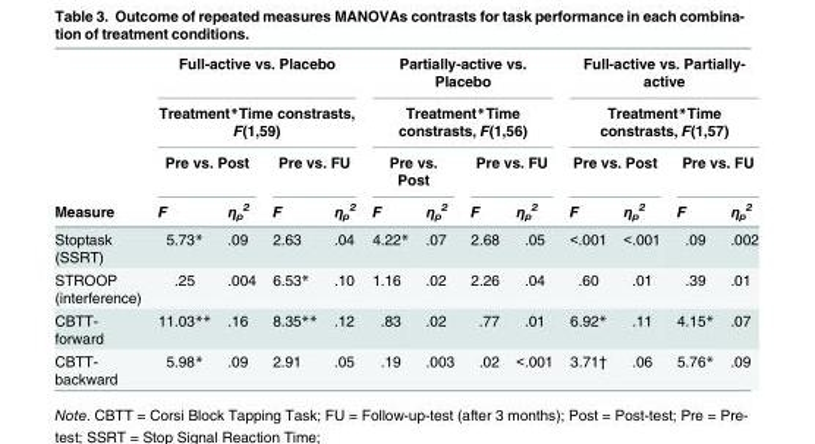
<table><thead><tr><td rowspan="4">Measure</td><td rowspan="2" colspan="4">Full-active vs. Placebo Treatment*Time constrasts, F(1,59)</td><td rowspan="2" colspan="4">Partially-active vs. Placebo Treatment*Time constrasts, F(1,56)</td><td rowspan="2" colspan="4">Full-active vs. Partially- active Treatment*Time constrasts, F(1,57)</td></tr><tr></tr><tr><td colspan="2">Pre vs. Post</td><td colspan="2">Pre vs. FU</td><td colspan="2">Pre vs. Post</td><td colspan="2">Pre vs. FU</td><td colspan="2">Pre vs. Post</td><td colspan="2">Pre vs. FU</td></tr><tr><td>F</td><td>η<sub>p</sub> <sup>2</sup></td><td>F</td><td>η<sub>p</sub> <sup>2</sup></td><td>F</td><td>η<sub>p</sub> <sup>2</sup></td><td>F</td><td>η<sub>p</sub> <sup>2</sup></td><td>F</td><td>η<sub>p</sub> <sup>2</sup></td><td>F</td><td>η<sub>p</sub> <sup>2</sup></td></tr></thead><tbody><tr><td>Stoptask (SSRT)</td><td>5.73*</td><td>.09</td><td>2.63</td><td>.04</td><td>4.22*</td><td>.07</td><td>2.68</td><td>.05</td><td>&lt;.001</td><td>&lt;.001</td><td>.09</td><td>.002</td></tr><tr><td>STROOP (interference)</td><td>.25</td><td>.004</td><td>6.53*</td><td>.10</td><td>1.16</td><td>.02</td><td>2.26</td><td>.04</td><td>.60</td><td>.01</td><td>.39</td><td>.01</td></tr><tr><td>CBTT- forward</td><td>11.03**</td><td>.16</td><td>8.35**</td><td>.12</td><td>.83</td><td>.02</td><td>.77</td><td>.01</td><td>6.92*</td><td>.11</td><td>4.15*</td><td>.07</td></tr><tr><td>CBTT- backward</td><td>5.98*</td><td>.09</td><td>2.91</td><td>.05</td><td>.19</td><td>.003</td><td>.02</td><td>&lt;.001</td><td>3.71†</td><td>.06</td><td>5.76*</td><td>.09</td></tr></tbody></table>